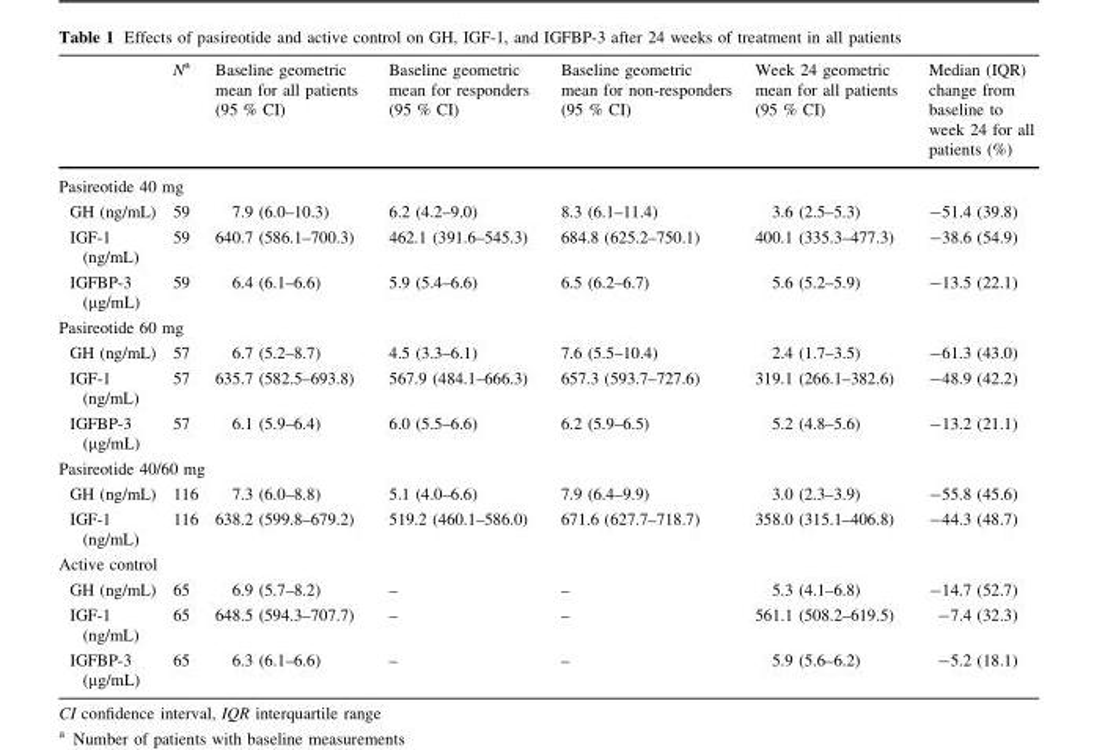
<table><thead><tr><td></td><td>N<sup>a</sup></td><td>Baseline geometric mean for all patients (95 % CI)</td><td>Baseline geometric mean for responders (95 % CI)</td><td>Baseline geometric mean for non-responders (95 % CI)</td><td>Week 24 geometric mean for all patients (95 % CI)</td><td>Median (IQR) change from baseline to week 24 for all patients (%)</td></tr></thead><tbody><tr><td colspan="7">Pasireotide 40 mg</td></tr><tr><td>GH (ng/mL)</td><td>59</td><td>7.9 (6.0–10.3)</td><td>6.2 (4.2–9.0)</td><td>8.3 (6.1–11.4)</td><td>3.6 (2.5–5.3)</td><td>-51.4 (39.8)</td></tr><tr><td>IGF-1 (ng/mL)</td><td>59</td><td>640.7 (586.1–700.3)</td><td>462.1 (391.6–545.3)</td><td>684.8 (625.2–750.1)</td><td>400.1 (335.3–477.3)</td><td>-38.6 (54.9)</td></tr><tr><td>IGFBP-3 (µg/mL)</td><td>59</td><td>6.4 (6.1–6.6)</td><td>5.9 (5.4–6.6)</td><td>6.5 (6.2–6.7)</td><td>5.6 (5.2–5.9)</td><td>-13.5 (22.1)</td></tr><tr><td colspan="7">Pasireotide 60 mg</td></tr><tr><td>GH (ng/mL)</td><td>57</td><td>6.7 (5.2–8.7)</td><td>4.5 (3.3–6.1)</td><td>7.6 (5.5–10.4)</td><td>2.4 (1.7–3.5)</td><td>-61.3 (43.0)</td></tr><tr><td>IGF-1 (ng/mL)</td><td>57</td><td>635.7 (582.5–693.8)</td><td>567.9 (484.1–666.3)</td><td>657.3 (593.7–727.6)</td><td>319.1 (266.1–382.6)</td><td>-48.9 (42.2)</td></tr><tr><td>IGFBP-3 (µg/mL)</td><td>57</td><td>6.1 (5.9–6.4)</td><td>6.0 (5.5–6.6)</td><td>6.2 (5.9–6.5)</td><td>5.2 (4.8–5.6)</td><td>-13.2 (21.1)</td></tr><tr><td colspan="7">Pasireotide 40/60 mg</td></tr><tr><td>GH (ng/mL)</td><td>116</td><td>7.3 (6.0–8.8)</td><td>5.1 (4.0–6.6)</td><td>7.9 (6.4–9.9)</td><td>3.0 (2.3–3.9)</td><td>-55.8 (45.6)</td></tr><tr><td>IGF-1 (ng/mL)</td><td>116</td><td>638.2 (599.8–679.2)</td><td>519.2 (460.1–586.0)</td><td>671.6 (627.7–718.7)</td><td>358.0 (315.1–406.8)</td><td>-44.3 (48.7)</td></tr><tr><td colspan="7">Active control</td></tr><tr><td>GH (ng/mL)</td><td>65</td><td>6.9 (5.7–8.2)</td><td>–</td><td>–</td><td>5.3 (4.1–6.8)</td><td>-14.7 (52.7)</td></tr><tr><td>IGF-1 (ng/mL)</td><td>65</td><td>648.5 (594.3–707.7)</td><td>–</td><td>–</td><td>561.1 (508.2–619.5)</td><td>-7.4 (32.3)</td></tr><tr><td>IGFBP-3 (µg/mL)</td><td>65</td><td>6.3 (6.1–6.6)</td><td>–</td><td>–</td><td>5.9 (5.6–6.2)</td><td>-5.2 (18.1)</td></tr></tbody></table>